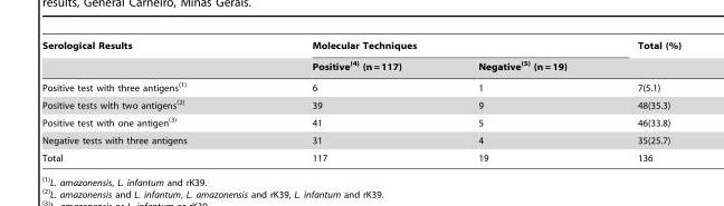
<table><thead><tr><td rowspan="2">Serological Results</td><td colspan="2">Molecular Techniques</td><td rowspan="2">Total (%)</td></tr><tr><td>Positive(4) (n = 117)</td><td>Negative(5) (n = 19)</td></tr></thead><tbody><tr><td>Positive test with three antigens(1)</td><td>6</td><td>1</td><td>7(5.1)</td></tr><tr><td>Positive tests with two antigens(2)</td><td>39</td><td>9</td><td>48(35.3)</td></tr><tr><td>Positive test with one antigen(3)</td><td>41</td><td>5</td><td>46(33.8)</td></tr><tr><td>Negative tests with three antigens</td><td>31</td><td>4</td><td>35(25.7)</td></tr><tr><td>Total</td><td>117</td><td>19</td><td>136</td></tr></tbody></table>